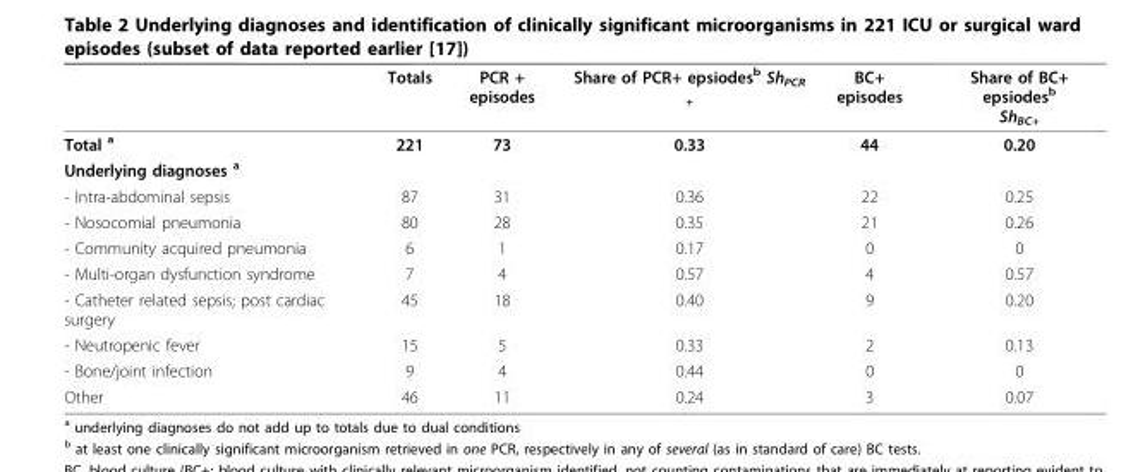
<table><thead><tr><td></td><td>Totals</td><td>PCR + episodes</td><td>Share of PCR+ epsiodes<sup>b</sup> Sh<sub>PCR +</sub></td><td>BC+ episodes</td><td>Share of BC+ epsiodes<sup>b</sup> Sh<sub>BC+</sub></td></tr></thead><tbody><tr><td>Total <sup>a</sup></td><td>221</td><td>73</td><td>0.33</td><td>44</td><td>0.20</td></tr><tr><td colspan="6">Underlying diagnoses <sup>a</sup></td></tr><tr><td>- Intra-abdominal sepsis</td><td>87</td><td>31</td><td>0.36</td><td>22</td><td>0.25</td></tr><tr><td>- Nosocomial pneumonia</td><td>80</td><td>28</td><td>0.35</td><td>21</td><td>0.26</td></tr><tr><td>- Community acquired pneumonia</td><td>6</td><td>1</td><td>0.17</td><td>0</td><td>0</td></tr><tr><td>- Multi-organ dysfunction syndrome</td><td>7</td><td>4</td><td>0.57</td><td>4</td><td>0.57</td></tr><tr><td>- Catheter related sepsis; post cardiac surgery</td><td>45</td><td>18</td><td>0.40</td><td>9</td><td>0.20</td></tr><tr><td>- Neutropenic fever</td><td>15</td><td>5</td><td>0.33</td><td>2</td><td>0.13</td></tr><tr><td>- Bone/joint infection</td><td>9</td><td>4</td><td>0.44</td><td>0</td><td>0</td></tr><tr><td>Other</td><td>46</td><td>11</td><td>0.24</td><td>3</td><td>0.07</td></tr></tbody></table>